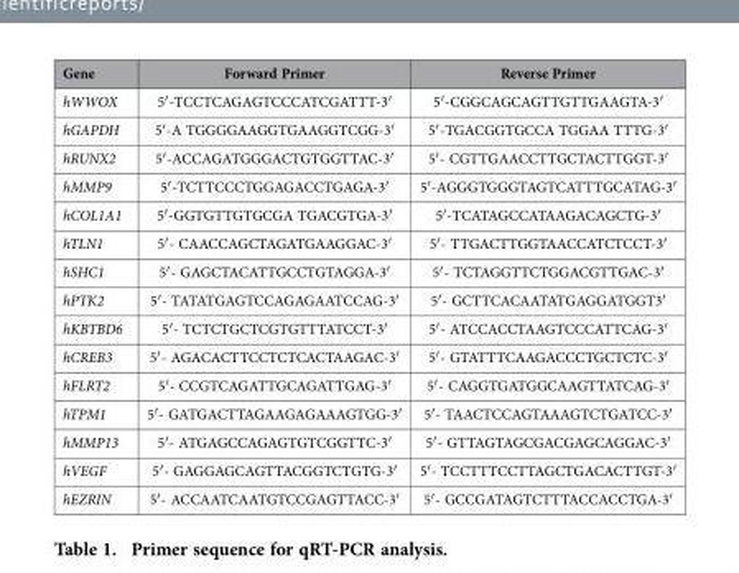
<table><thead><tr><td>Gene</td><td>Forward Primer</td><td>Reverse Primer</td></tr></thead><tbody><tr><td>hWWOX</td><td>5′ -TCCTCAGAGTCCCATCGATTT-3′</td><td>5′ -CGGCAGCAGTTGTTGAAGTA-3′</td></tr><tr><td>hGAPDH</td><td>5′ -A TGGGGAAGGTGAAGGTCGG-3′</td><td>5′ -TGACGGTGCCA TGGAA TTTG-3′</td></tr><tr><td>hRUNX2</td><td>5′ -ACCAGATGGGACTGTGGTTAC-3′</td><td>5′ - CGTTGAACCTTGCTACTTGGT-3′</td></tr><tr><td>hMMP9</td><td>5′ -TCTTCCCTGGAGACCTGAGA-3′</td><td>5′ -AGGGTGGGTAGTCATTTGCATAG-3′</td></tr><tr><td>hCOL1A1</td><td>5′ -GGTGTTGTGCGA TGACGTGA-3′</td><td>5′ -TCATAGCCATAAGACAGCTG-3′</td></tr><tr><td>hTLN1</td><td>5′ - CAACCAGCTAGATGAAGGAC-3′</td><td>5′ - TTGACTTGGTAACCATCTCCT-3′</td></tr><tr><td>hSHC1</td><td>5′ - GAGCTACATTGCCTGTAGGA-3′</td><td>5′ - TCTAGGTTCTGGACGTTGAC-3′</td></tr><tr><td>hPTK2</td><td>5′ - TATATGAGTCCAGAGAATCCAG-3′</td><td>5′ - GCTTCACAATATGAGGATGGT3′</td></tr><tr><td>hKBTBD6</td><td>5′ - TCTCTGCTCGTGTTTATCCT-3′</td><td>5′ - ATCCACCTAAGTCCCATTCAG-3′</td></tr><tr><td>hCREB3</td><td>5′ - AGACACTTCCTCTCACTAAGAC-3′</td><td>5′ - GTATTTCAAGACCCTGCTCTC-3′</td></tr><tr><td>hFLRT2</td><td>5′ - CCGTCAGATTGCAGATTGAG-3′</td><td>5′ - CAGGTGATGGCAAGTTATCAG-3′</td></tr><tr><td>hTPM1</td><td>5′ - GATGACTTAGAAGAGAAAGTGG-3′</td><td>5′ - TAACTCCAGTAAAGTCTGATCC-3′</td></tr><tr><td>hMMP13</td><td>5′ - ATGAGCCAGAGTGTCGGTTC-3′</td><td>5′ - GTTAGTAGCGACGAGCAGGAC-3′</td></tr><tr><td>hVEGF</td><td>5′ - GAGGAGCAGTTACGGTCTGTG-3′</td><td>5′ - TCCTTTCCTTAGCTGACACTTGT-3′</td></tr><tr><td>hEZRIN</td><td>5′ - ACCAATCAATGTCCGAGTTACC-3′</td><td>5′ - GCCGATAGTCTTTACCACCTGA-3′</td></tr></tbody></table>